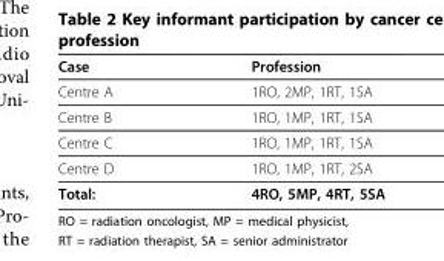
<table><thead><tr><td>Case</td><td>Profession</td></tr></thead><tbody><tr><td>Centre A</td><td>1RO, 2MP, 1RT, 1SA</td></tr><tr><td>Centre B</td><td>1RO, 1MP, 1RT, 1SA</td></tr><tr><td>Centre C</td><td>1RO, 1MP, 1RT, 1SA</td></tr><tr><td>Centre D</td><td>1RO, 1MP, 1RT, 2SA</td></tr><tr><td>Total:</td><td>4RO, 5MP, 4RT, 5SA</td></tr></tbody></table>